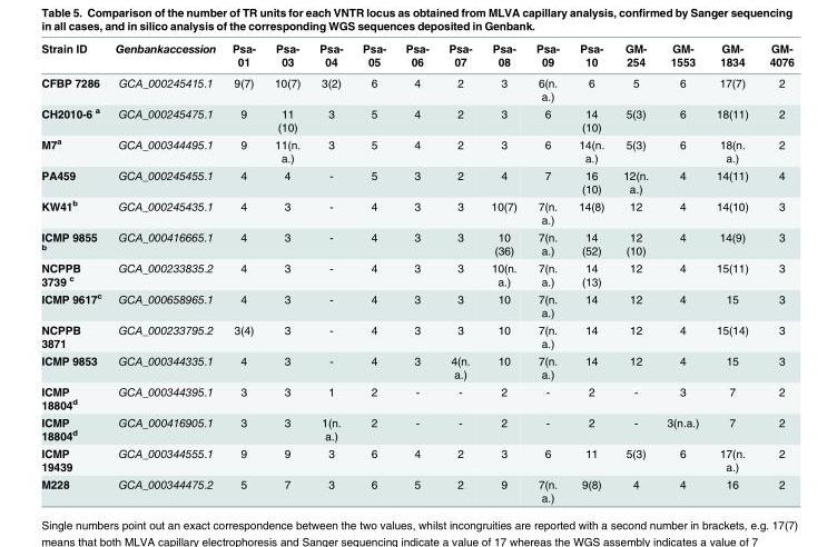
<table><thead><tr><td>Strain ID</td><td>Genbankaccession</td><td>Psa- 01</td><td>Psa- 03</td><td>Psa- 04</td><td>Psa- 05</td><td>Psa- 06</td><td>Psa- 07</td><td>Psa- 08</td><td>Psa- 09</td><td>Psa- 10</td><td>GM- 254</td><td>GM- 1553</td><td>GM- 1834</td><td>GM- 4076</td></tr></thead><tbody><tr><td>CFBP 7286</td><td>GCA_000245415.1</td><td>9(7)</td><td>10(7)</td><td>3(2)</td><td>6</td><td>4</td><td>2</td><td>3</td><td>6(n. a.)</td><td>6</td><td>5</td><td>6</td><td>17(7)</td><td>2</td></tr><tr><td>CH2010-6 <sup>a</sup></td><td>GCA_000245475.1</td><td>9</td><td>11 (10)</td><td>3</td><td>5</td><td>4</td><td>2</td><td>3</td><td>6</td><td>14 (10)</td><td>5(3)</td><td>6</td><td>18(11)</td><td>2</td></tr><tr><td>M7<sup>a</sup></td><td>GCA_000344495.1</td><td>9</td><td>11(n. a.)</td><td>3</td><td>5</td><td>4</td><td>2</td><td>3</td><td>6</td><td>14(n. a.)</td><td>5(3)</td><td>6</td><td>18(n. a.)</td><td>2</td></tr><tr><td>PA459</td><td>GCA_000245455.1</td><td>4</td><td>4</td><td>-</td><td>5</td><td>3</td><td>2</td><td>4</td><td>7</td><td>16 (10)</td><td>12(n. a.)</td><td>4</td><td>14(11)</td><td>4</td></tr><tr><td>KW41<sup>b</sup></td><td>GCA_000245435.1</td><td>4</td><td>3</td><td>-</td><td>4</td><td>3</td><td>3</td><td>10(7)</td><td>7(n. a.)</td><td>14(8)</td><td>12</td><td>4</td><td>14(10)</td><td>3</td></tr><tr><td>ICMP 9855 <sup>b</sup></td><td>GCA_000416665.1</td><td>4</td><td>3</td><td>-</td><td>4</td><td>3</td><td>3</td><td>10 (36)</td><td>7(n. a.)</td><td>14 (52)</td><td>12 (10)</td><td>4</td><td>14(9)</td><td>3</td></tr><tr><td>NCPPB 3739 <sup>c</sup></td><td>GCA_000233835.2</td><td>4</td><td>3</td><td>-</td><td>4</td><td>3</td><td>3</td><td>10(n. a.)</td><td>7(n. a.)</td><td>14 (13)</td><td>12</td><td>4</td><td>15(11)</td><td>3</td></tr><tr><td>ICMP 9617<sup>c</sup></td><td>GCA_000658965.1</td><td>4</td><td>3</td><td>-</td><td>4</td><td>3</td><td>3</td><td>10</td><td>7(n. a.)</td><td>14</td><td>12</td><td>4</td><td>15</td><td>3</td></tr><tr><td>NCPPB 3871</td><td>GCA_000233795.2</td><td>3(4)</td><td>3</td><td>-</td><td>4</td><td>3</td><td>3</td><td>10</td><td>7(n. a.)</td><td>14</td><td>12</td><td>4</td><td>15(14)</td><td>3</td></tr><tr><td>ICMP 9853</td><td>GCA_000344335.1</td><td>4</td><td>3</td><td>-</td><td>4</td><td>3</td><td>4(n. a.)</td><td>10</td><td>7(n. a.)</td><td>14</td><td>12</td><td>4</td><td>15</td><td>3</td></tr><tr><td>ICMP 18804<sup>d</sup></td><td>GCA_000344395.1</td><td>3</td><td>3</td><td>1</td><td>2</td><td>-</td><td>-</td><td>2</td><td>-</td><td>2</td><td>-</td><td>3</td><td>7</td><td>2</td></tr><tr><td>ICMP 18804<sup>d</sup></td><td>GCA_000416905.1</td><td>3</td><td>3</td><td>1(n. a.)</td><td>2</td><td>-</td><td>-</td><td>2</td><td>-</td><td>2</td><td>-</td><td>3(n.a.)</td><td>7</td><td>2</td></tr><tr><td>ICMP 19439</td><td>GCA_000344555.1</td><td>9</td><td>9</td><td>3</td><td>6</td><td>4</td><td>2</td><td>3</td><td>6</td><td>11</td><td>5(3)</td><td>6</td><td>17(n. a.)</td><td>2</td></tr><tr><td>M228</td><td>GCA_000344475.2</td><td>5</td><td>7</td><td>3</td><td>6</td><td>5</td><td>2</td><td>9</td><td>7(n. a.)</td><td>9(8)</td><td>4</td><td>4</td><td>16</td><td>2</td></tr></tbody></table>